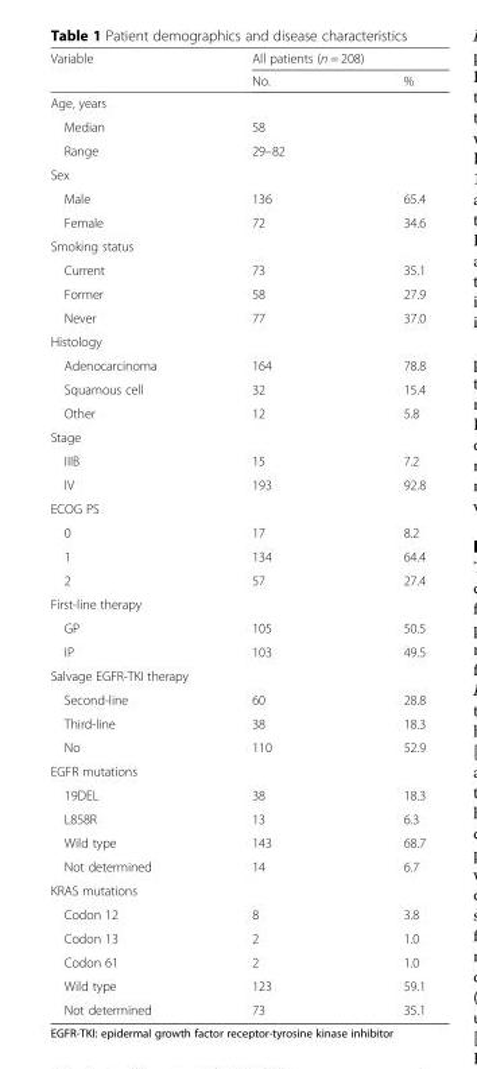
<table><thead><tr><td rowspan="2">Variable</td><td colspan="2">All patients (n = 208)</td></tr><tr><td>No.</td><td>%</td></tr></thead><tbody><tr><td colspan="3">Age, years</td></tr><tr><td>Median</td><td>58</td><td rowspan="2"></td></tr><tr><td>Range</td><td>29–82</td></tr><tr><td colspan="3">Sex</td></tr><tr><td>Male</td><td>136</td><td>65.4</td></tr><tr><td>Female</td><td>72</td><td>34.6</td></tr><tr><td colspan="3">Smoking status</td></tr><tr><td>Current</td><td>73</td><td>35.1</td></tr><tr><td>Former</td><td>58</td><td>27.9</td></tr><tr><td>Never</td><td>77</td><td>37.0</td></tr><tr><td colspan="3">Histology</td></tr><tr><td>Adenocarcinoma</td><td>164</td><td>78.8</td></tr><tr><td>Squamous cell</td><td>32</td><td>15.4</td></tr><tr><td>Other</td><td>12</td><td>5.8</td></tr><tr><td colspan="3">Stage</td></tr><tr><td>IIIB</td><td>15</td><td>7.2</td></tr><tr><td>IV</td><td>193</td><td>92.8</td></tr><tr><td colspan="3">ECOG PS</td></tr><tr><td>0</td><td>17</td><td>8.2</td></tr><tr><td>1</td><td>134</td><td>64.4</td></tr><tr><td>2</td><td>57</td><td>27.4</td></tr><tr><td colspan="3">First-line therapy</td></tr><tr><td>GP</td><td>105</td><td>50.5</td></tr><tr><td>IP</td><td>103</td><td>49.5</td></tr><tr><td colspan="3">Salvage EGFR-TKI therapy</td></tr><tr><td>Second-line</td><td>60</td><td>28.8</td></tr><tr><td>Third-line</td><td>38</td><td>18.3</td></tr><tr><td>No</td><td>110</td><td>52.9</td></tr><tr><td colspan="3">EGFR mutations</td></tr><tr><td>19DEL</td><td>38</td><td>18.3</td></tr><tr><td>L858R</td><td>13</td><td>6.3</td></tr><tr><td>Wild type</td><td>143</td><td>68.7</td></tr><tr><td>Not determined</td><td>14</td><td>6.7</td></tr><tr><td colspan="3">KRAS mutations</td></tr><tr><td>Codon 12</td><td>8</td><td>3.8</td></tr><tr><td>Codon 13</td><td>2</td><td>1.0</td></tr><tr><td>Codon 61</td><td>2</td><td>1.0</td></tr><tr><td>Wild type</td><td>123</td><td>59.1</td></tr><tr><td>Not determined</td><td>73</td><td>35.1</td></tr></tbody></table>